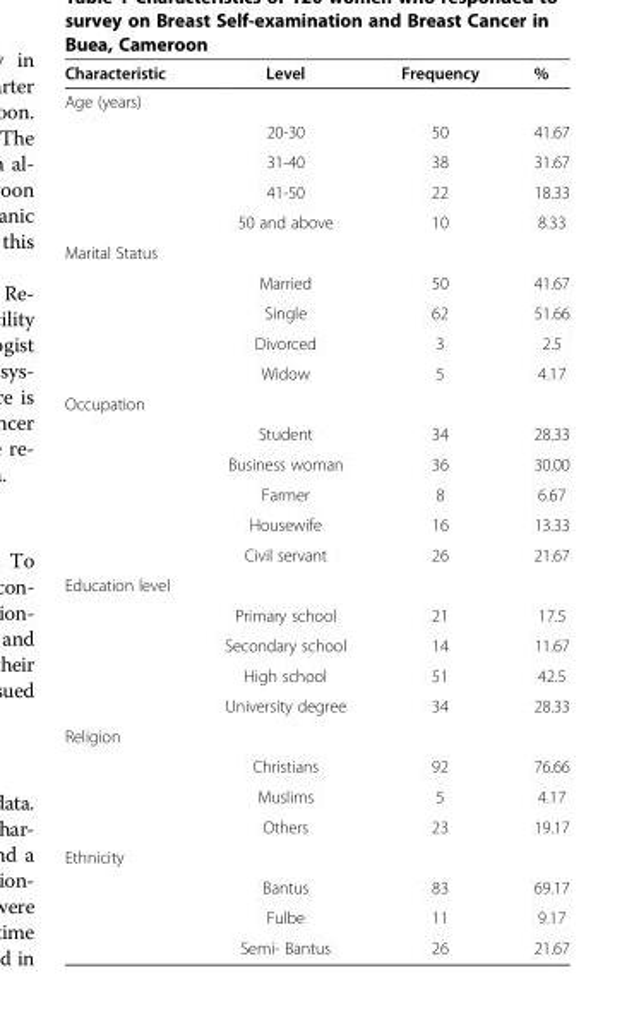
<table><thead><tr><td>Characteristic</td><td>Level</td><td>Frequency</td><td>%</td></tr></thead><tbody><tr><td colspan="4">Age (years)</td></tr><tr><td></td><td>20-30</td><td>50</td><td>41.67</td></tr><tr><td></td><td>31-40</td><td>38</td><td>31.67</td></tr><tr><td></td><td>41-50</td><td>22</td><td>18.33</td></tr><tr><td></td><td>50 and above</td><td>10</td><td>8.33</td></tr><tr><td colspan="4">Marital Status</td></tr><tr><td></td><td>Married</td><td>50</td><td>41.67</td></tr><tr><td></td><td>Single</td><td>62</td><td>51.66</td></tr><tr><td></td><td>Divorced</td><td>3</td><td>2.5</td></tr><tr><td></td><td>Widow</td><td>5</td><td>4.17</td></tr><tr><td colspan="4">Occupation</td></tr><tr><td></td><td>Student</td><td>34</td><td>28.33</td></tr><tr><td></td><td>Business woman</td><td>36</td><td>30.00</td></tr><tr><td></td><td>Farmer</td><td>8</td><td>6.67</td></tr><tr><td></td><td>Housewife</td><td>16</td><td>13.33</td></tr><tr><td></td><td>Civil servant</td><td>26</td><td>21.67</td></tr><tr><td colspan="4">Education level</td></tr><tr><td></td><td>Primary school</td><td>21</td><td>17.5</td></tr><tr><td></td><td>Secondary school</td><td>14</td><td>11.67</td></tr><tr><td></td><td>High school</td><td>51</td><td>42.5</td></tr><tr><td></td><td>University degree</td><td>34</td><td>28.33</td></tr><tr><td colspan="4">Religion</td></tr><tr><td></td><td>Christians</td><td>92</td><td>76.66</td></tr><tr><td></td><td>Muslims</td><td>5</td><td>4.17</td></tr><tr><td></td><td>Others</td><td>23</td><td>19.17</td></tr><tr><td colspan="4">Ethnicity</td></tr><tr><td></td><td>Bantus</td><td>83</td><td>69.17</td></tr><tr><td></td><td>Fulbe</td><td>11</td><td>9.17</td></tr><tr><td></td><td>Semi- Bantus</td><td>26</td><td>21.67</td></tr></tbody></table>